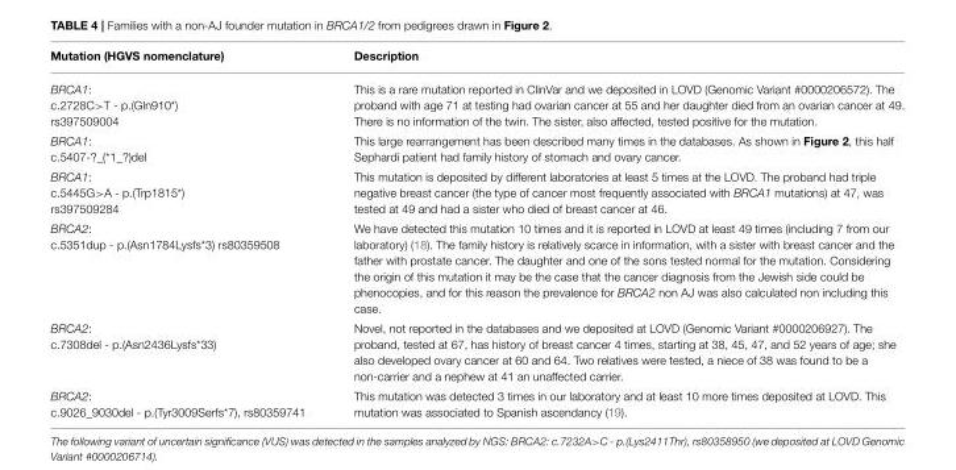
<table><thead><tr><td>Mutation (HGVS nomenclature)</td><td>Description</td></tr></thead><tbody><tr><td>BRCA1: c.2728C&gt;T - p.(Gln910*) rs397509004</td><td>This is a rare mutation reported in ClinVar and we deposited in LOVD (Genomic Variant #0000206572). The proband with age 71 at testing had ovarian cancer at 55 and her daughter died from an ovarian cancer at 49. There is no information of the twin. The sister, also affected, tested positive for the mutation.</td></tr><tr><td>BRCA1: c.5407-?_(*1_?)del</td><td>This large rearrangement has been described many times in the databases. As shown in Figure 2, this half Sephardi patient had family history of stomach and ovary cancer.</td></tr><tr><td>BRCA1: c.5445G&gt;A - p.(Trp1815*) rs397509284</td><td>This mutation is deposited by different laboratories at least 5 times at the LOVD. The proband had triple negative breast cancer (the type of cancer most frequently associated with BRCA1 mutations) at 47, was tested at 49 and had a sister who died of breast cancer at 46.</td></tr><tr><td>BRCA2: c.5351dup - p.(Asn1784Lysfs*3) rs80359508</td><td>We have detected this mutation 10 times and it is reported in LOVD at least 49 times (including 7 from our laboratory) (18). The family history is relatively scarce in information, with a sister with breast cancer and the father with prostate cancer. The daughter and one of the sons tested normal for the mutation. Considering the origin of this mutation it may be the case that the cancer diagnosis from the Jewish side could be phenocopies, and for this reason the prevalence for BRCA2 non AJ was also calculated non including this case.</td></tr><tr><td>BRCA2: c.7308del - p.(Asn2436Lysfs*33)</td><td>Novel, not reported in the databases and we deposited at LOVD (Genomic Variant #0000206927). The proband, tested at 67, has history of breast cancer 4 times, starting at 38, 45, 47, and 52 years of age; she also developed ovary cancer at 60 and 64. Two relatives were tested, a niece of 38 was found to be a non-carrier and a nephew at 41 an unaffected carrier.</td></tr><tr><td>BRCA2: c.9026_9030del - p.(Tyr3009Serfs*7), rs80359741</td><td>This mutation was detected 3 times in our laboratory and at least 10 more times deposited at LOVD. This mutation was associated to Spanish ascendancy (19).</td></tr></tbody></table>